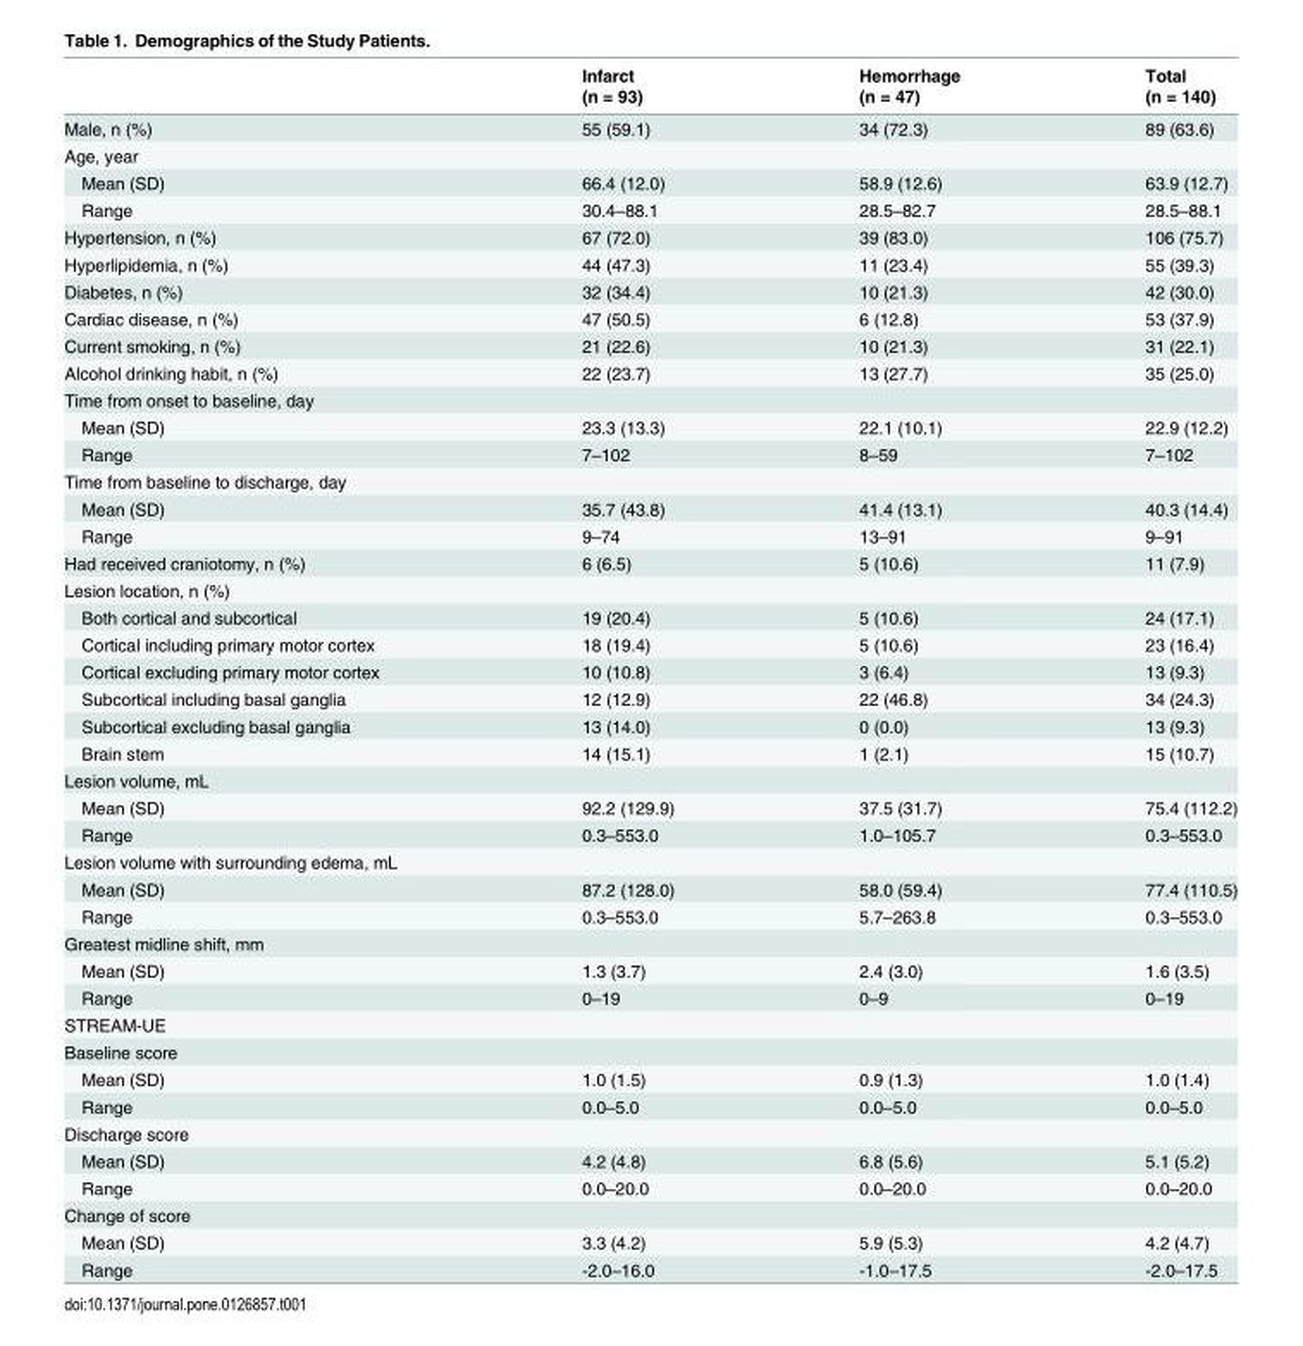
<table><thead><tr><td rowspan="2"></td><td rowspan="2">Infarct (n = 93)</td><td rowspan="2">Hemorrhage (n = 47)</td><td rowspan="2">Total (n = 140)</td></tr><tr></tr></thead><tbody><tr><td>Male, n (%)</td><td>55 (59.1)</td><td>34 (72.3)</td><td>89 (63.6)</td></tr><tr><td colspan="4">Age, year</td></tr><tr><td>Mean (SD)</td><td>66.4 (12.0)</td><td>58.9 (12.6)</td><td>63.9 (12.7)</td></tr><tr><td>Range</td><td>30.4–88.1</td><td>28.5–82.7</td><td>28.5–88.1</td></tr><tr><td>Hypertension, n (%)</td><td>67 (72.0)</td><td>39 (83.0)</td><td>106 (75.7)</td></tr><tr><td>Hyperlipidemia, n (%)</td><td>44 (47.3)</td><td>11 (23.4)</td><td>55 (39.3)</td></tr><tr><td>Diabetes, n (%)</td><td>32 (34.4)</td><td>10 (21.3)</td><td>42 (30.0)</td></tr><tr><td>Cardiac disease, n (%)</td><td>47 (50.5)</td><td>6 (12.8)</td><td>53 (37.9)</td></tr><tr><td>Current smoking, n (%)</td><td>21 (22.6)</td><td>10 (21.3)</td><td>31 (22.1)</td></tr><tr><td>Alcohol drinking habit, n (%)</td><td>22 (23.7)</td><td>13 (27.7)</td><td>35 (25.0)</td></tr><tr><td colspan="4">Time from onset to baseline, day</td></tr><tr><td>Mean (SD)</td><td>23.3 (13.3)</td><td>22.1 (10.1)</td><td>22.9 (12.2)</td></tr><tr><td>Range</td><td>7–102</td><td>8–59</td><td>7–102</td></tr><tr><td colspan="4">Time from baseline to discharge, day</td></tr><tr><td>Mean (SD)</td><td>35.7 (43.8)</td><td>41.4 (13.1)</td><td>40.3 (14.4)</td></tr><tr><td>Range</td><td>9–74</td><td>13–91</td><td>9–91</td></tr><tr><td>Had received craniotomy, n (%)</td><td>6 (6.5)</td><td>5 (10.6)</td><td>11 (7.9)</td></tr><tr><td colspan="4">Lesion location, n (%)</td></tr><tr><td>Both cortical and subcortical</td><td>19 (20.4)</td><td>5 (10.6)</td><td>24 (17.1)</td></tr><tr><td>Cortical including primary motor cortex</td><td>18 (19.4)</td><td>5 (10.6)</td><td>23 (16.4)</td></tr><tr><td>Cortical excluding primary motor cortex</td><td>10 (10.8)</td><td>3 (6.4)</td><td>13 (9.3)</td></tr><tr><td>Subcortical including basal ganglia</td><td>12 (12.9)</td><td>22 (46.8)</td><td>34 (24.3)</td></tr><tr><td>Subcortical excluding basal ganglia</td><td>13 (14.0)</td><td>0 (0.0)</td><td>13 (9.3)</td></tr><tr><td>Brain stem</td><td>14 (15.1)</td><td>1 (2.1)</td><td>15 (10.7)</td></tr><tr><td colspan="4">Lesion volume, mL</td></tr><tr><td>Mean (SD)</td><td>92.2 (129.9)</td><td>37.5 (31.7)</td><td>75.4 (112.2)</td></tr><tr><td>Range</td><td>0.3–553.0</td><td>1.0–105.7</td><td>0.3–553.0</td></tr><tr><td colspan="4">Lesion volume with surrounding edema, mL</td></tr><tr><td>Mean (SD)</td><td>87.2 (128.0)</td><td>58.0 (59.4)</td><td>77.4 (110.5)</td></tr><tr><td>Range</td><td>0.3–553.0</td><td>5.7–263.8</td><td>0.3–553.0</td></tr><tr><td colspan="4">Greatest midline shift, mm</td></tr><tr><td>Mean (SD)</td><td>1.3 (3.7)</td><td>2.4 (3.0)</td><td>1.6 (3.5)</td></tr><tr><td>Range</td><td>0–19</td><td>0–9</td><td>0–19</td></tr><tr><td colspan="4">STREAM-UE</td></tr><tr><td colspan="4">Baseline score</td></tr><tr><td>Mean (SD)</td><td>1.0 (1.5)</td><td>0.9 (1.3)</td><td>1.0 (1.4)</td></tr><tr><td>Range</td><td>0.0–5.0</td><td>0.0–5.0</td><td>0.0–5.0</td></tr><tr><td colspan="4">Discharge score</td></tr><tr><td>Mean (SD)</td><td>4.2 (4.8)</td><td>6.8 (5.6)</td><td>5.1 (5.2)</td></tr><tr><td>Range</td><td>0.0–20.0</td><td>0.0–20.0</td><td>0.0–20.0</td></tr><tr><td colspan="4">Change of score</td></tr><tr><td>Mean (SD)</td><td>3.3 (4.2)</td><td>5.9 (5.3)</td><td>4.2 (4.7)</td></tr><tr><td>Range</td><td>-2.0–16.0</td><td>-1.0–17.5</td><td>-2.0–17.5</td></tr></tbody></table>